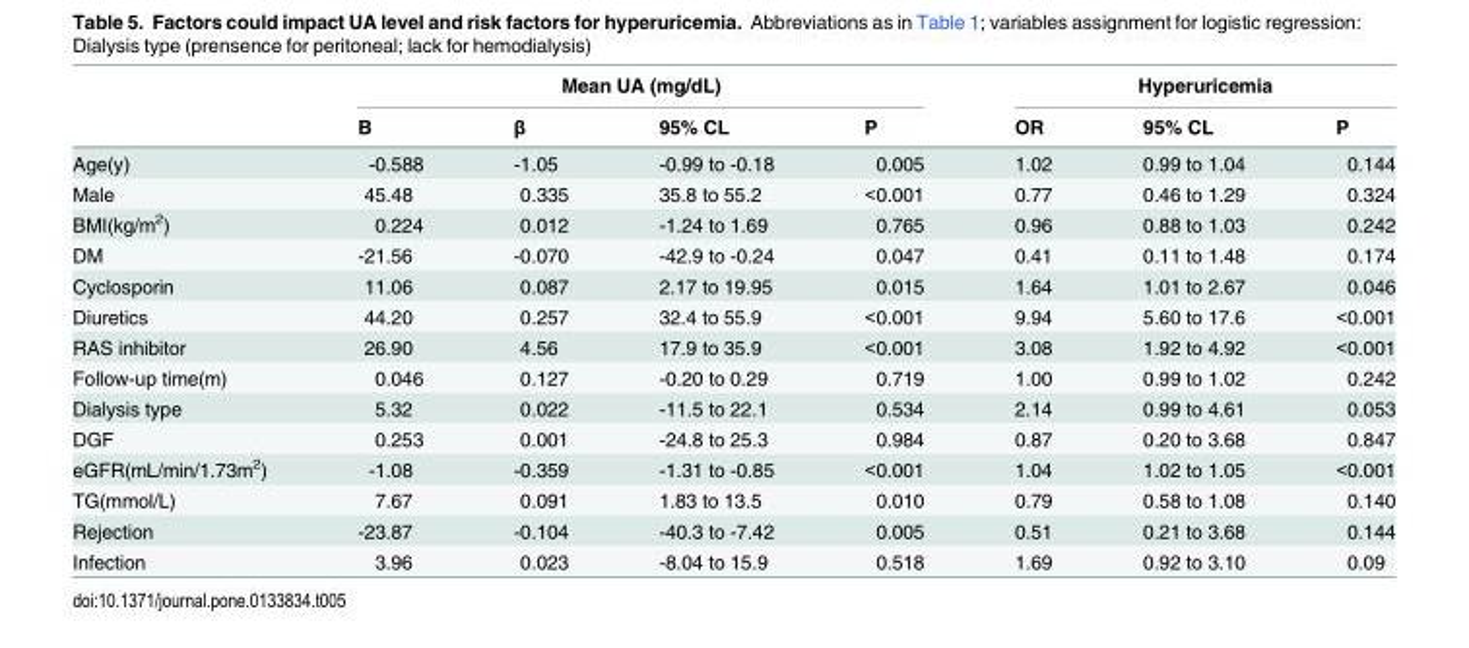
<table><thead><tr><td rowspan="2"></td><td colspan="4">Mean UA (mg/dL)</td><td colspan="3">Hyperuricemia</td></tr><tr><td>B</td><td>β</td><td>95% CL</td><td>P</td><td>OR</td><td>95% CL</td><td>P</td></tr></thead><tbody><tr><td>Age(y)</td><td>-0.588</td><td>-1.05</td><td>-0.99 to -0.18</td><td>0.005</td><td>1.02</td><td>0.99 to 1.04</td><td>0.144</td></tr><tr><td>Male</td><td>45.48</td><td>0.335</td><td>35.8 to 55.2</td><td>&lt;0.001</td><td>0.77</td><td>0.46 to 1.29</td><td>0.324</td></tr><tr><td>BMI(kg/m<sup>2</sup>)</td><td>0.224</td><td>0.012</td><td>-1.24 to 1.69</td><td>0.765</td><td>0.96</td><td>0.88 to 1.03</td><td>0.242</td></tr><tr><td>DM</td><td>-21.56</td><td>-0.070</td><td>-42.9 to -0.24</td><td>0.047</td><td>0.41</td><td>0.11 to 1.48</td><td>0.174</td></tr><tr><td>Cyclosporin</td><td>11.06</td><td>0.087</td><td>2.17 to 19.95</td><td>0.015</td><td>1.64</td><td>1.01 to 2.67</td><td>0.046</td></tr><tr><td>Diuretics</td><td>44.20</td><td>0.257</td><td>32.4 to 55.9</td><td>&lt;0.001</td><td>9.94</td><td>5.60 to 17.6</td><td>&lt;0.001</td></tr><tr><td>RAS inhibitor</td><td>26.90</td><td>4.56</td><td>17.9 to 35.9</td><td>&lt;0.001</td><td>3.08</td><td>1.92 to 4.92</td><td>&lt;0.001</td></tr><tr><td>Follow-up time(m)</td><td>0.046</td><td>0.127</td><td>-0.20 to 0.29</td><td>0.719</td><td>1.00</td><td>0.99 to 1.02</td><td>0.242</td></tr><tr><td>Dialysis type</td><td>5.32</td><td>0.022</td><td>-11.5 to 22.1</td><td>0.534</td><td>2.14</td><td>0.99 to 4.61</td><td>0.053</td></tr><tr><td>DGF</td><td>0.253</td><td>0.001</td><td>-24.8 to 25.3</td><td>0.984</td><td>0.87</td><td>0.20 to 3.68</td><td>0.847</td></tr><tr><td>eGFR(mL/min/1.73m<sup>2</sup>)</td><td>-1.08</td><td>-0.359</td><td>-1.31 to -0.85</td><td>&lt;0.001</td><td>1.04</td><td>1.02 to 1.05</td><td>&lt;0.001</td></tr><tr><td>TG(mmol/L)</td><td>7.67</td><td>0.091</td><td>1.83 to 13.5</td><td>0.010</td><td>0.79</td><td>0.58 to 1.08</td><td>0.140</td></tr><tr><td>Rejection</td><td>-23.87</td><td>-0.104</td><td>-40.3 to -7.42</td><td>0.005</td><td>0.51</td><td>0.21 to 3.68</td><td>0.144</td></tr><tr><td>Infection</td><td>3.96</td><td>0.023</td><td>-8.04 to 15.9</td><td>0.518</td><td>1.69</td><td>0.92 to 3.10</td><td>0.09</td></tr></tbody></table>